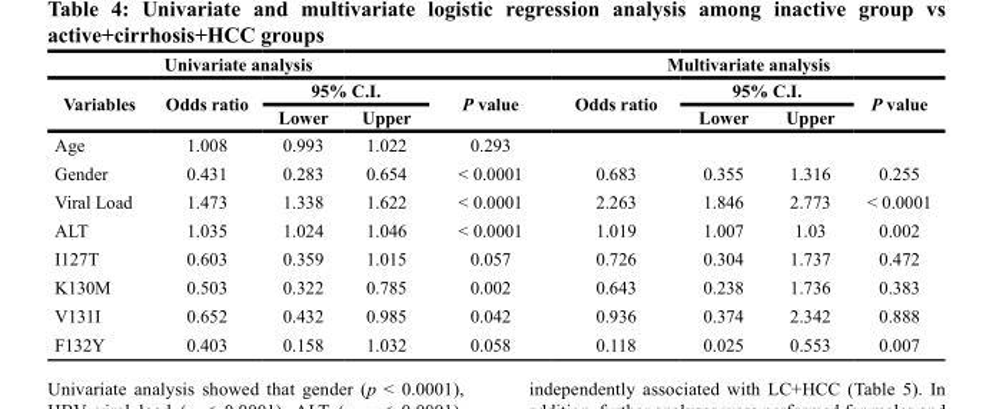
<table><thead><tr><td colspan="5">Univariate analysis</td><td colspan="4">Multivariate analysis</td></tr><tr><td rowspan="2">Variables</td><td rowspan="2">Odds ratio</td><td colspan="2">95% C.I.</td><td rowspan="2">P value</td><td rowspan="2">Odds ratio</td><td colspan="2">95% C.I.</td><td rowspan="2">P value</td></tr><tr><td>Lower</td><td>Upper</td><td>Lower</td><td>Upper</td></tr></thead><tbody><tr><td>Age</td><td>1.008</td><td>0.993</td><td>1.022</td><td>0.293</td><td></td><td></td><td></td><td></td></tr><tr><td>Gender</td><td>0.431</td><td>0.283</td><td>0.654</td><td>&lt; 0.0001</td><td>0.683</td><td>0.355</td><td>1.316</td><td>0.255</td></tr><tr><td>Viral Load</td><td>1.473</td><td>1.338</td><td>1.622</td><td>&lt; 0.0001</td><td>2.263</td><td>1.846</td><td>2.773</td><td>&lt; 0.0001</td></tr><tr><td>ALT</td><td>1.035</td><td>1.024</td><td>1.046</td><td>&lt; 0.0001</td><td>1.019</td><td>1.007</td><td>1.03</td><td>0.002</td></tr><tr><td>I127T</td><td>0.603</td><td>0.359</td><td>1.015</td><td>0.057</td><td>0.726</td><td>0.304</td><td>1.737</td><td>0.472</td></tr><tr><td>K130M</td><td>0.503</td><td>0.322</td><td>0.785</td><td>0.002</td><td>0.643</td><td>0.238</td><td>1.736</td><td>0.383</td></tr><tr><td>V131I</td><td>0.652</td><td>0.432</td><td>0.985</td><td>0.042</td><td>0.936</td><td>0.374</td><td>2.342</td><td>0.888</td></tr><tr><td>F132Y</td><td>0.403</td><td>0.158</td><td>1.032</td><td>0.058</td><td>0.118</td><td>0.025</td><td>0.553</td><td>0.007</td></tr></tbody></table>